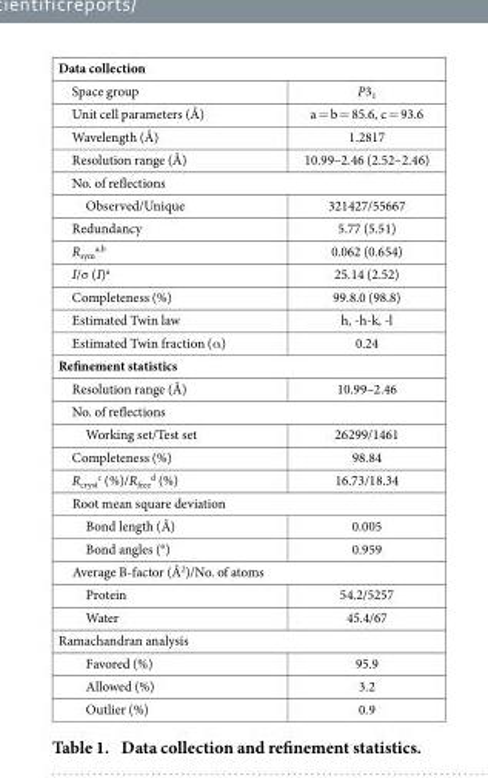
<table><tbody><tr><td colspan="2">Data collection</td></tr><tr><td>Space group</td><td>P3<sub>1</sub></td></tr><tr><td>Unit cell parameters (Å)</td><td>a = b = 85.6, c = 93.6</td></tr><tr><td>Wavelength (Å)</td><td>1.2817</td></tr><tr><td>Resolution range (Å)</td><td>10.99–2.46 (2.52–2.46)</td></tr><tr><td colspan="2">No. of reflections</td></tr><tr><td>Observed/Unique</td><td>321427/55667</td></tr><tr><td>Redundancy</td><td>5.77 (5.51)</td></tr><tr><td>R<sub>sym</sub> <sup>a,b</sup></td><td>0.062 (0.654)</td></tr><tr><td>I/σ (I)<sup>a</sup></td><td>25.14 (2.52)</td></tr><tr><td>Completeness (%)</td><td>99.8.0 (98.8)</td></tr><tr><td>Estimated Twin law</td><td>h, -h-k, -l</td></tr><tr><td>Estimated Twin fraction (α )</td><td>0.24</td></tr><tr><td colspan="2">Refinement statistics</td></tr><tr><td>Resolution range (Å)</td><td>10.99–2.46</td></tr><tr><td colspan="2">No. of reflections</td></tr><tr><td>Working set/Test set</td><td>26299/1461</td></tr><tr><td>Completeness (%)</td><td>98.84</td></tr><tr><td>R<sub>cryst</sub> <sup>c</sup> (%)/R<sub>free</sub> <sup>d</sup> (%)</td><td>16.73/18.34</td></tr><tr><td colspan="2">Root mean square deviation</td></tr><tr><td>Bond length (Å)</td><td>0.005</td></tr><tr><td>Bond angles (°)</td><td>0.959</td></tr><tr><td colspan="2">Average B-factor (Å<sup>2</sup>)/No. of atoms</td></tr><tr><td>Protein</td><td>54.2/5257</td></tr><tr><td>Water</td><td>45.4/67</td></tr><tr><td colspan="2">Ramachandran analysis</td></tr><tr><td>Favored (%)</td><td>95.9</td></tr><tr><td>Allowed (%)</td><td>3.2</td></tr><tr><td>Outlier (%)</td><td>0.9</td></tr></tbody></table>